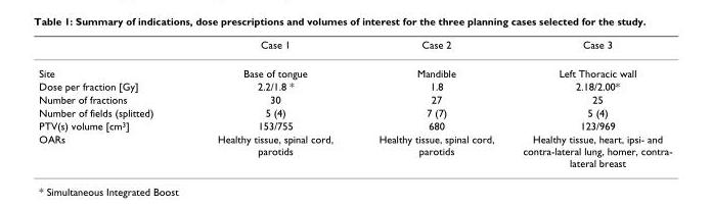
<table><thead><tr><td></td><td>Case 1</td><td>Case 2</td><td>Case 3</td></tr></thead><tbody><tr><td>Site</td><td>Base of tongue</td><td>Mandible</td><td>Left Thoracic wall</td></tr><tr><td>Dose per fraction [Gy]</td><td>2.2/1.8 *</td><td>1.8</td><td>2.18/2.00*</td></tr><tr><td>Number of fractions</td><td>30</td><td>27</td><td>25</td></tr><tr><td>Number of fields (splitted)</td><td>5 (4)</td><td>7 (7)</td><td>5 (4)</td></tr><tr><td>PTV(s) volume [cm<sup>3</sup>]</td><td>153/755</td><td>680</td><td>123/969</td></tr><tr><td>OARs</td><td>Healthy tissue, spinal cord, parotids</td><td>Healthy tissue, spinal cord, parotids</td><td>Healthy tissue, heart, ipsi- and contra-lateral lung, homer, contra- lateral breast</td></tr></tbody></table>